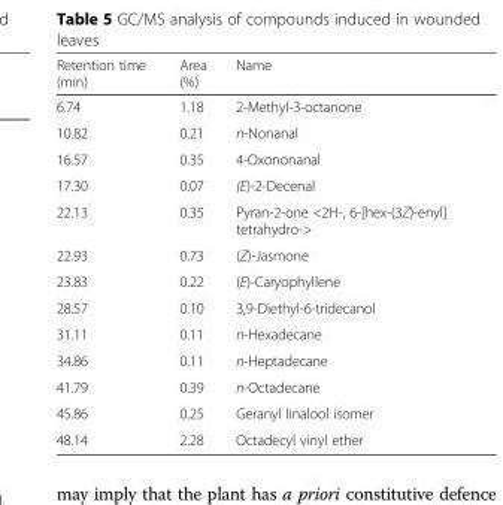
<table><thead><tr><td>Retention time (min)</td><td>Area (%)</td><td>Name</td></tr></thead><tbody><tr><td>6.74</td><td>1.18</td><td>2-Methyl-3-octanone</td></tr><tr><td>10.82</td><td>0.21</td><td>n-Nonanal</td></tr><tr><td>16.57</td><td>0.35</td><td>4-Oxononanal</td></tr><tr><td>17.30</td><td>0.07</td><td>(E)-2-Decenal</td></tr><tr><td>22.13</td><td>0.35</td><td>Pyran-2-one &lt;2H-, 6-[hex-(3Z)-enyl] tetrahydro-&gt;</td></tr><tr><td>22.93</td><td>0.73</td><td>(Z)-Jasmone</td></tr><tr><td>23.83</td><td>0.22</td><td>(E)-Caryophyllene</td></tr><tr><td>28.57</td><td>0.10</td><td>3,9-Diethyl-6-tridecanol</td></tr><tr><td>31.11</td><td>0.11</td><td>n-Hexadecane</td></tr><tr><td>34.86</td><td>0.11</td><td>n-Heptadecane</td></tr><tr><td>41.79</td><td>0.39</td><td>n-Octadecane</td></tr><tr><td>45.86</td><td>0.25</td><td>Geranyl linalool isomer</td></tr><tr><td>48.14</td><td>2.28</td><td>Octadecyl vinyl ether</td></tr></tbody></table>